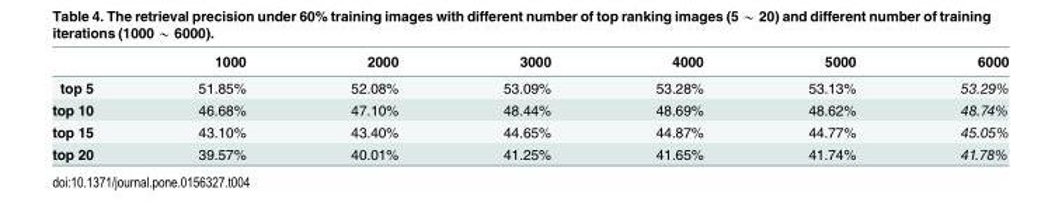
<table><thead><tr><td></td><td>1000</td><td>2000</td><td>3000</td><td>4000</td><td>5000</td><td>6000</td></tr></thead><tbody><tr><td>top 5</td><td>51.85%</td><td>52.08%</td><td>53.09%</td><td>53.28%</td><td>53.13%</td><td>53.29%</td></tr><tr><td>top 10</td><td>46.68%</td><td>47.10%</td><td>48.44%</td><td>48.69%</td><td>48.62%</td><td>48.74%</td></tr><tr><td>top 15</td><td>43.10%</td><td>43.40%</td><td>44.65%</td><td>44.87%</td><td>44.77%</td><td>45.05%</td></tr><tr><td>top 20</td><td>39.57%</td><td>40.01%</td><td>41.25%</td><td>41.65%</td><td>41.74%</td><td>41.78%</td></tr></tbody></table>